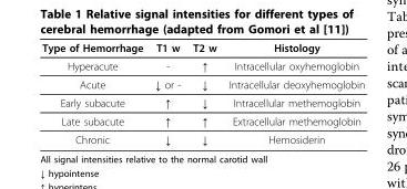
<table><thead><tr><td>Type of Hemorrhage</td><td>T1 w</td><td>T2 w</td><td>Histology</td></tr></thead><tbody><tr><td>Hyperacute</td><td>-</td><td>↑</td><td>Intracellular oxyhemoglobin</td></tr><tr><td>Acute</td><td>↓ or -</td><td>↓</td><td>Intracellular deoxyhemoglobin</td></tr><tr><td>Early subacute</td><td>↑</td><td>↓</td><td>Intracellular methemoglobin</td></tr><tr><td>Late subacute</td><td>↑</td><td>↑</td><td>Extracellular methemoglobin</td></tr><tr><td>Chronic</td><td>↓</td><td>↓</td><td>Hemosiderin</td></tr></tbody></table>